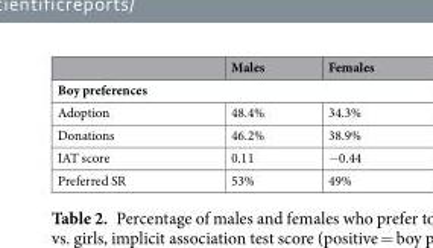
<table><thead><tr><td></td><td>Males</td><td>Females</td></tr></thead><tbody><tr><td colspan="3">Boy preferences</td></tr><tr><td>Adoption</td><td>48.4%</td><td>34.3%</td></tr><tr><td>Donations</td><td>46.2%</td><td>38.9%</td></tr><tr><td>IAT score</td><td>0.11</td><td>−0.44</td></tr><tr><td>Preferred SR</td><td>53%</td><td>49%</td></tr></tbody></table>